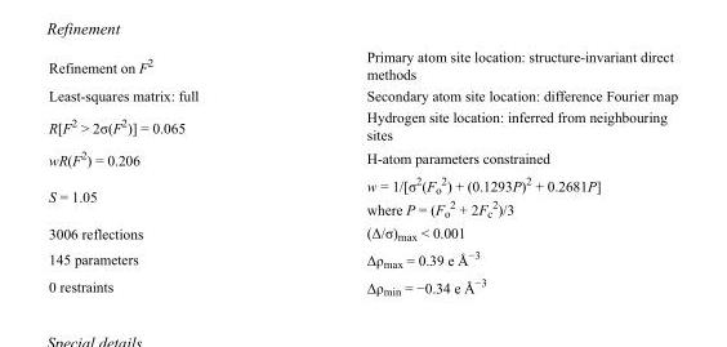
<table><tbody><tr><td>Refinement on F<sup>2</sup></td><td>Primary atom site location: structure-invariant direct methods</td></tr><tr><td>Least-squares matrix: full</td><td>Secondary atom site location: difference Fourier map</td></tr><tr><td>R[F<sup>2</sup> &gt; 2σ(F<sup>2</sup>)] = 0.065</td><td>Hydrogen site location: inferred from neighbouring sites</td></tr><tr><td>wR(F<sup>2</sup>) = 0.206</td><td>H-atom parameters constrained</td></tr><tr><td>S = 1.05</td><td>w = 1/[σ<sup>2</sup>(F<sub>o</sub> <sup>2</sup>) + (0.1293P)<sup>2</sup> + 0.2681P] where P = (F<sub>o</sub> <sup>2</sup> + 2F<sub>c</sub> <sup>2</sup>)/3</td></tr><tr><td>3006 reflections</td><td>(Δ/σ)<sub>max</sub> &lt; 0.001</td></tr><tr><td>145 parameters</td><td>Δρ<sub>max</sub> = 0.39 e Å<sup>−3</sup></td></tr><tr><td>0 restraints</td><td>Δρ<sub>min</sub> = −0.34 e Å<sup>−3</sup></td></tr></tbody></table>